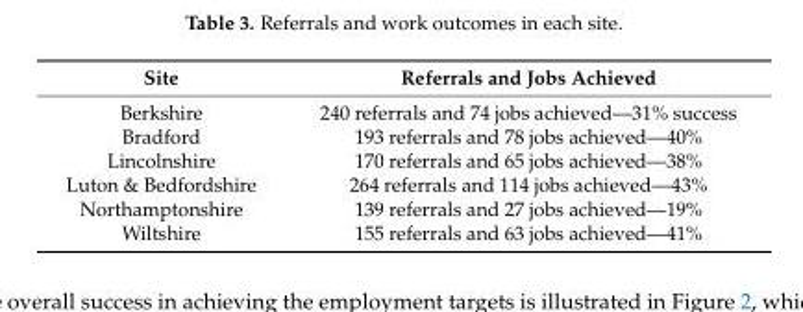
<table><thead><tr><td>Site</td><td>Referrals and Jobs Achieved</td></tr></thead><tbody><tr><td>Berkshire</td><td>240 referrals and 74 jobs achieved—31% success</td></tr><tr><td>Bradford</td><td>193 referrals and 78 jobs achieved—40%</td></tr><tr><td>Lincolnshire</td><td>170 referrals and 65 jobs achieved—38%</td></tr><tr><td>Luton &amp; Bedfordshire</td><td>264 referrals and 114 jobs achieved—43%</td></tr><tr><td>Northamptonshire</td><td>139 referrals and 27 jobs achieved—19%</td></tr><tr><td>Wiltshire</td><td>155 referrals and 63 jobs achieved—41%</td></tr></tbody></table>